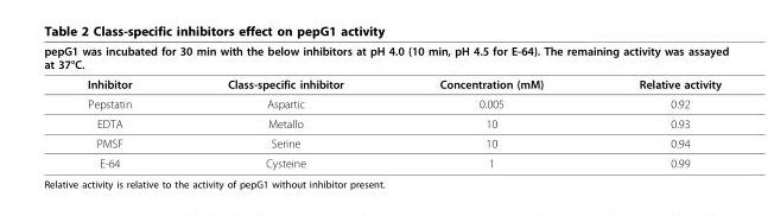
<table><thead><tr><td colspan="4">pepG1 was incubated for 30 min with the below inhibitors at pH 4.0 (10 min, pH 4.5 for E-64). The remaining activity was assayed at 37°C.</td></tr><tr><td>Inhibitor</td><td>Class-specific inhibitor</td><td>Concentration (mM)</td><td>Relative activity</td></tr></thead><tbody><tr><td>Pepstatin</td><td>Aspartic</td><td>0.005</td><td>0.92</td></tr><tr><td>EDTA</td><td>Metallo</td><td>10</td><td>0.93</td></tr><tr><td>PMSF</td><td>Serine</td><td>10</td><td>0.94</td></tr><tr><td>E-64</td><td>Cysteine</td><td>1</td><td>0.99</td></tr></tbody></table>